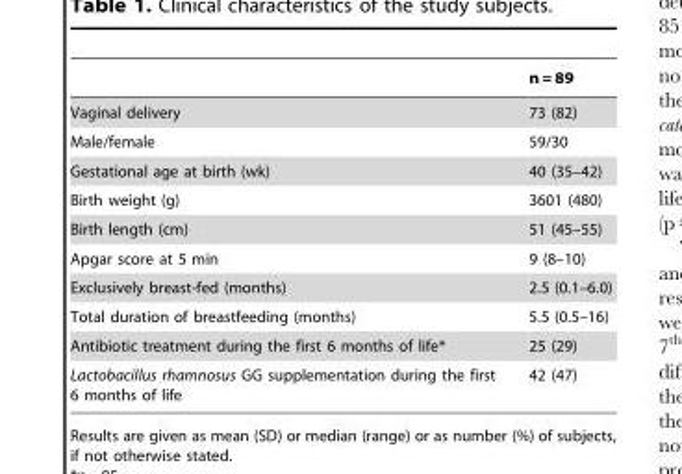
<table><thead><tr><td></td><td>n = 89</td></tr></thead><tbody><tr><td>Vaginal delivery</td><td>73 (82)</td></tr><tr><td>Male/female</td><td>59/30</td></tr><tr><td>Gestational age at birth (wk)</td><td>40 (35–42)</td></tr><tr><td>Birth weight (g)</td><td>3601 (480)</td></tr><tr><td>Birth length (cm)</td><td>51 (45–55)</td></tr><tr><td>Apgar score at 5 min</td><td>9 (8–10)</td></tr><tr><td>Exclusively breast-fed (months)</td><td>2.5 (0.1–6.0)</td></tr><tr><td>Total duration of breastfeeding (months)</td><td>5.5 (0.5–16)</td></tr><tr><td>Antibiotic treatment during the first 6 months of life*</td><td>25 (29)</td></tr><tr><td>Lactobacillus rhamnosus GG supplementation during the first 6 months of life</td><td>42 (47)</td></tr></tbody></table>